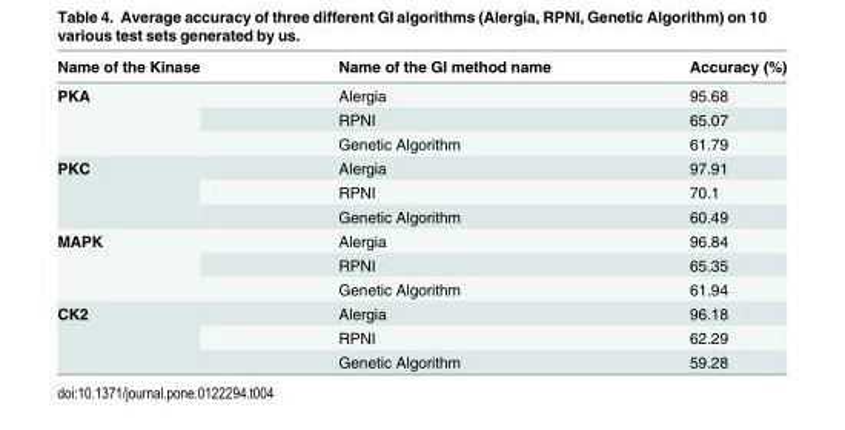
<table><thead><tr><td>Name of the Kinase</td><td>Name of the GI method name</td><td>Accuracy (%)</td></tr></thead><tbody><tr><td rowspan="3">PKA</td><td>Alergia</td><td>95.68</td></tr><tr><td>RPNI</td><td>65.07</td></tr><tr><td>Genetic Algorithm</td><td>61.79</td></tr><tr><td rowspan="3">PKC</td><td>Alergia</td><td>97.91</td></tr><tr><td>RPNI</td><td>70.1</td></tr><tr><td>Genetic Algorithm</td><td>60.49</td></tr><tr><td rowspan="3">MAPK</td><td>Alergia</td><td>96.84</td></tr><tr><td>RPNI</td><td>65.35</td></tr><tr><td>Genetic Algorithm</td><td>61.94</td></tr><tr><td rowspan="3">CK2</td><td>Alergia</td><td>96.18</td></tr><tr><td>RPNI</td><td>62.29</td></tr><tr><td>Genetic Algorithm</td><td>59.28</td></tr></tbody></table>